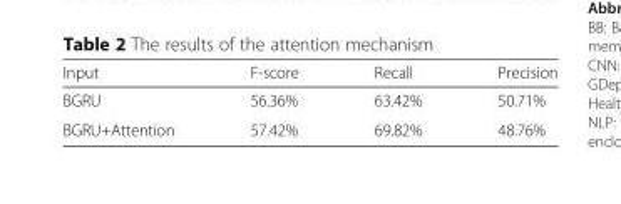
<table><thead><tr><td>Input</td><td>F-score</td><td>Recall</td><td>Precision</td></tr></thead><tbody><tr><td>BGRU</td><td>56.36%</td><td>63.42%</td><td>50.71%</td></tr><tr><td>BGRU+Attention</td><td>57.42%</td><td>69.82%</td><td>48.76%</td></tr></tbody></table>